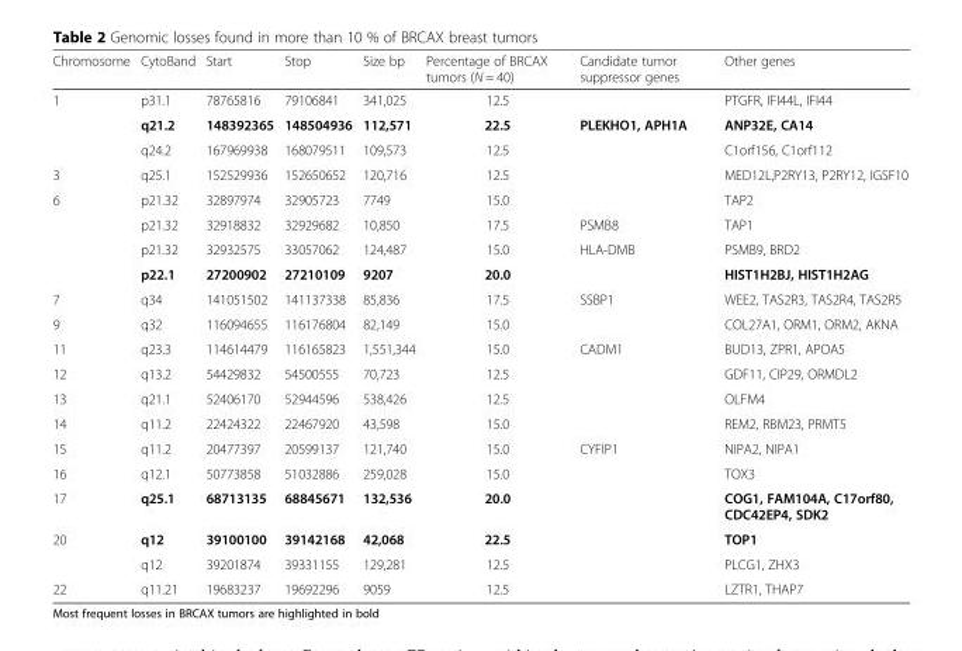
<table><thead><tr><td>Chromosome</td><td>CytoBand</td><td>Start</td><td>Stop</td><td>Size bp</td><td>Percentage of BRCAX tumors (N = 40)</td><td>Candidate tumor suppressor genes</td><td>Other genes</td></tr></thead><tbody><tr><td rowspan="3">1</td><td>p31.1</td><td>78765816</td><td>79106841</td><td>341,025</td><td>12.5</td><td></td><td>PTGFR, IFI44L, IFI44</td></tr><tr><td>q21.2</td><td>148392365</td><td>148504936</td><td>112,571</td><td>22.5</td><td>PLEKHO1, APH1A</td><td>ANP32E, CA14</td></tr><tr><td>q24.2</td><td>167969938</td><td>168079511</td><td>109,573</td><td>12.5</td><td></td><td>C1orf156, C1orf112</td></tr><tr><td>3</td><td>q25.1</td><td>152529936</td><td>152650652</td><td>120,716</td><td>12.5</td><td></td><td>MED12L,P2RY13, P2RY12, IGSF10</td></tr><tr><td rowspan="4">6</td><td>p21.32</td><td>32897974</td><td>32905723</td><td>7749</td><td>15.0</td><td></td><td>TAP2</td></tr><tr><td>p21.32</td><td>32918832</td><td>32929682</td><td>10,850</td><td>17.5</td><td>PSMB8</td><td>TAP1</td></tr><tr><td>p21.32</td><td>32932575</td><td>33057062</td><td>124,487</td><td>15.0</td><td>HLA-DMB</td><td>PSMB9, BRD2</td></tr><tr><td>p22.1</td><td>27200902</td><td>27210109</td><td>9207</td><td>20.0</td><td></td><td>HIST1H2BJ, HIST1H2AG</td></tr><tr><td>7</td><td>q34</td><td>141051502</td><td>141137338</td><td>85,836</td><td>17.5</td><td>SSBP1</td><td>WEE2, TAS2R3, TAS2R4, TAS2R5</td></tr><tr><td>9</td><td>q32</td><td>116094655</td><td>116176804</td><td>82,149</td><td>15.0</td><td></td><td>COL27A1, ORM1, ORM2, AKNA</td></tr><tr><td>11</td><td>q23.3</td><td>114614479</td><td>116165823</td><td>1,551,344</td><td>15.0</td><td>CADM1</td><td>BUD13, ZPR1, APOA5</td></tr><tr><td>12</td><td>q13.2</td><td>54429832</td><td>54500555</td><td>70,723</td><td>12.5</td><td></td><td>GDF11, CIP29, ORMDL2</td></tr><tr><td>13</td><td>q21.1</td><td>52406170</td><td>52944596</td><td>538,426</td><td>12.5</td><td></td><td>OLFM4</td></tr><tr><td>14</td><td>q11.2</td><td>22424322</td><td>22467920</td><td>43,598</td><td>15.0</td><td></td><td>REM2, RBM23, PRMT5</td></tr><tr><td>15</td><td>q11.2</td><td>20477397</td><td>20599137</td><td>121,740</td><td>15.0</td><td>CYFIP1</td><td>NIPA2, NIPA1</td></tr><tr><td>16</td><td>q12.1</td><td>50773858</td><td>51032886</td><td>259,028</td><td>15.0</td><td></td><td>TOX3</td></tr><tr><td>17</td><td>q25.1</td><td>68713135</td><td>68845671</td><td>132,536</td><td>20.0</td><td></td><td>COG1, FAM104A, C17orf80, CDC42EP4, SDK2</td></tr><tr><td rowspan="2">20</td><td>q12</td><td>39100100</td><td>39142168</td><td>42,068</td><td>22.5</td><td></td><td>TOP1</td></tr><tr><td>q12</td><td>39201874</td><td>39331155</td><td>129,281</td><td>12.5</td><td></td><td>PLCG1, ZHX3</td></tr><tr><td>22</td><td>q11.21</td><td>19683237</td><td>19692296</td><td>9059</td><td>12.5</td><td></td><td>LZTR1, THAP7</td></tr></tbody></table>